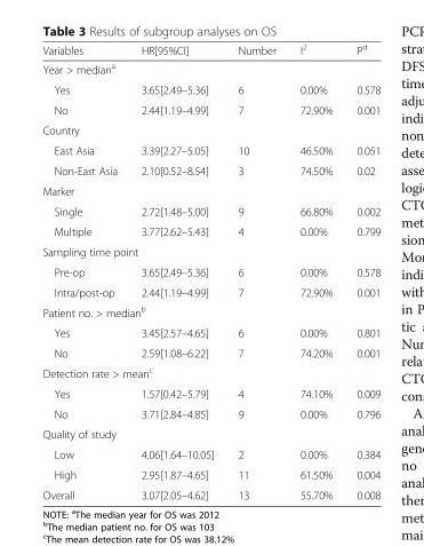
<table><thead><tr><td>Variables</td><td>HR[95%CI]</td><td>Number</td><td>I<sup>2</sup></td><td>P<sup>d</sup></td></tr></thead><tbody><tr><td colspan="5">Year &gt; median<sup>a</sup></td></tr><tr><td>Yes</td><td>3.65[2.49–5.36]</td><td>6</td><td>0.00%</td><td>0.578</td></tr><tr><td>No</td><td>2.44[1.19–4.99]</td><td>7</td><td>72.90%</td><td>0.001</td></tr><tr><td colspan="5">Country</td></tr><tr><td>East Asia</td><td>3.39[2.27–5.05]</td><td>10</td><td>46.50%</td><td>0.051</td></tr><tr><td>Non-East Asia</td><td>2.10[0.52–8.54]</td><td>3</td><td>74.50%</td><td>0.02</td></tr><tr><td colspan="5">Marker</td></tr><tr><td>Single</td><td>2.72[1.48–5.00]</td><td>9</td><td>66.80%</td><td>0.002</td></tr><tr><td>Multiple</td><td>3.77[2.62–5.43]</td><td>4</td><td>0.00%</td><td>0.799</td></tr><tr><td colspan="5">Sampling time point</td></tr><tr><td>Pre-op</td><td>3.65[2.49–5.36]</td><td>6</td><td>0.00%</td><td>0.578</td></tr><tr><td>Intra/post-op</td><td>2.44[1.19–4.99]</td><td>7</td><td>72.90%</td><td>0.001</td></tr><tr><td colspan="5">Patient no. &gt; median<sup>b</sup></td></tr><tr><td>Yes</td><td>3.45[2.57–4.65]</td><td>6</td><td>0.00%</td><td>0.801</td></tr><tr><td>No</td><td>2.59[1.08–6.22]</td><td>7</td><td>74.20%</td><td>0.001</td></tr><tr><td colspan="5">Detection rate &gt; mean<sup>c</sup></td></tr><tr><td>Yes</td><td>1.57[0.42–5.79]</td><td>4</td><td>74.10%</td><td>0.009</td></tr><tr><td>No</td><td>3.71[2.84–4.85]</td><td>9</td><td>0.00%</td><td>0.796</td></tr><tr><td colspan="5">Quality of study</td></tr><tr><td>Low</td><td>4.06[1.64–10.05]</td><td>2</td><td>0.00%</td><td>0.384</td></tr><tr><td>High</td><td>2.95[1.87–4.65]</td><td>11</td><td>61.50%</td><td>0.004</td></tr><tr><td>Overall</td><td>3.07[2.05–4.62]</td><td>13</td><td>55.70%</td><td>0.008</td></tr></tbody></table>